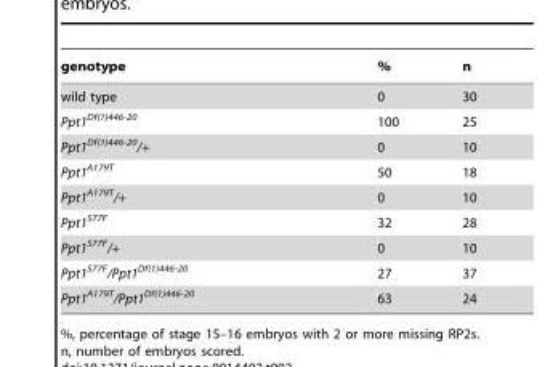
<table><thead><tr><td>genotype</td><td>%</td><td>n</td></tr></thead><tbody><tr><td>wild type</td><td>0</td><td>30</td></tr><tr><td>Ppt1<sup>Df(1)446-20</sup></td><td>100</td><td>25</td></tr><tr><td>Ppt1<sup>Df(1)446-20</sup>/+</td><td>0</td><td>10</td></tr><tr><td>Ppt1<sup>A179T</sup></td><td>50</td><td>18</td></tr><tr><td>Ppt1<sup>A179T</sup>/+</td><td>0</td><td>10</td></tr><tr><td>Ppt1<sup>S77F</sup></td><td>32</td><td>28</td></tr><tr><td>Ppt1<sup>S77F</sup>/+</td><td>0</td><td>10</td></tr><tr><td>Ppt1<sup>S77F</sup>/Ppt1<sup>Df(1)446-20</sup></td><td>27</td><td>37</td></tr><tr><td>Ppt1<sup>A179T</sup>/Ppt1<sup>Df(1)446-20</sup></td><td>63</td><td>24</td></tr></tbody></table>